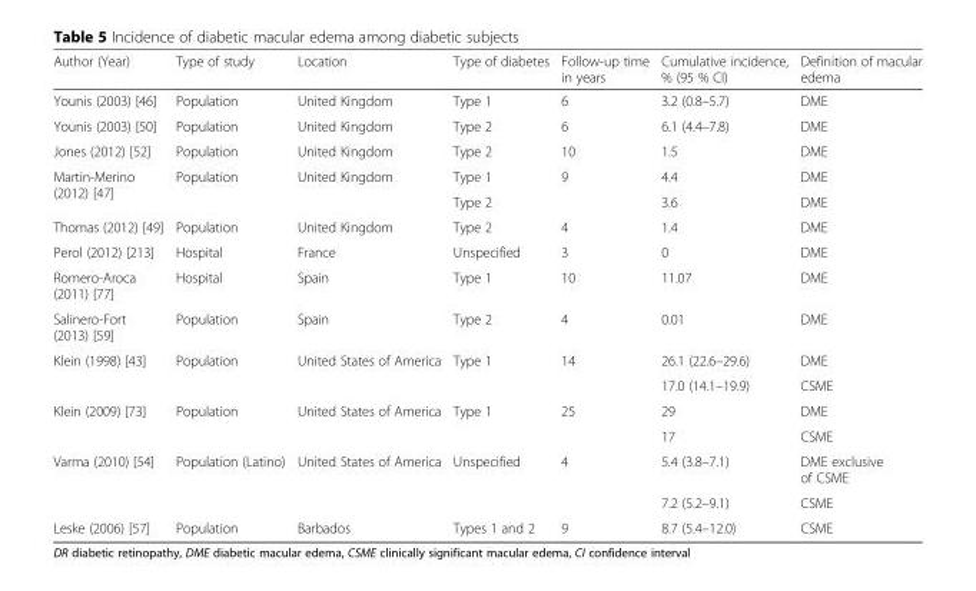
<table><thead><tr><td>Author (Year)</td><td>Type of study</td><td>Location</td><td>Type of diabetes</td><td>Follow-up time in years</td><td>Cumulative incidence, % (95 % CI)</td><td>Definition of macular edema</td></tr></thead><tbody><tr><td>Younis (2003) [46]</td><td>Population</td><td>United Kingdom</td><td>Type 1</td><td>6</td><td>3.2 (0.8–5.7)</td><td>DME</td></tr><tr><td>Younis (2003) [50]</td><td>Population</td><td>United Kingdom</td><td>Type 2</td><td>6</td><td>6.1 (4.4–7.8)</td><td>DME</td></tr><tr><td>Jones (2012) [52]</td><td>Population</td><td>United Kingdom</td><td>Type 2</td><td>10</td><td>1.5</td><td>DME</td></tr><tr><td rowspan="2">Martin-Merino (2012) [47]</td><td rowspan="2">Population</td><td rowspan="2">United Kingdom</td><td>Type 1</td><td rowspan="2">9</td><td>4.4</td><td>DME</td></tr><tr><td>Type 2</td><td>3.6</td><td>DME</td></tr><tr><td>Thomas (2012) [49]</td><td>Population</td><td>United Kingdom</td><td>Type 2</td><td>4</td><td>1.4</td><td>DME</td></tr><tr><td>Perol (2012) [213]</td><td>Hospital</td><td>France</td><td>Unspecified</td><td>3</td><td>0</td><td>DME</td></tr><tr><td>Romero-Aroca (2011) [77]</td><td>Hospital</td><td>Spain</td><td>Type 1</td><td>10</td><td>11.07</td><td>DME</td></tr><tr><td>Salinero-Fort (2013) [59]</td><td>Population</td><td>Spain</td><td>Type 2</td><td>4</td><td>0.01</td><td>DME</td></tr><tr><td rowspan="2">Klein (1998) [43]</td><td rowspan="2">Population</td><td rowspan="2">United States of America</td><td rowspan="2">Type 1</td><td rowspan="2">14</td><td>26.1 (22.6–29.6)</td><td>DME</td></tr><tr><td>17.0 (14.1–19.9)</td><td>CSME</td></tr><tr><td rowspan="2">Klein (2009) [73]</td><td rowspan="2">Population</td><td rowspan="2">United States of America</td><td rowspan="2">Type 1</td><td rowspan="2">25</td><td>29</td><td>DME</td></tr><tr><td>17</td><td>CSME</td></tr><tr><td rowspan="2">Varma (2010) [54]</td><td rowspan="2">Population (Latino)</td><td rowspan="2">United States of America</td><td rowspan="2">Unspecified</td><td rowspan="2">4</td><td>5.4 (3.8–7.1)</td><td>DME exclusive of CSME</td></tr><tr><td>7.2 (5.2–9.1)</td><td>CSME</td></tr><tr><td>Leske (2006) [57]</td><td>Population</td><td>Barbados</td><td>Types 1 and 2</td><td>9</td><td>8.7 (5.4–12.0)</td><td>CSME</td></tr></tbody></table>